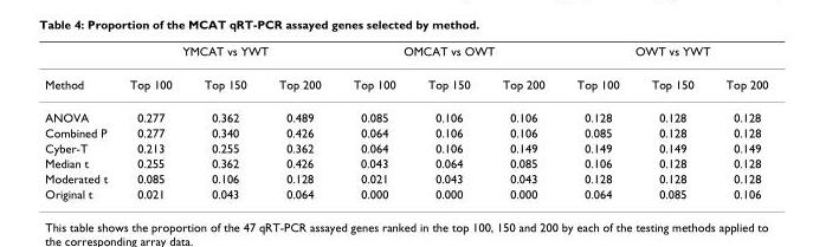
<table><thead><tr><td rowspan="2">Method</td><td colspan="3">YMCAT vs YWT</td><td colspan="3">OMCAT vs OWT</td><td colspan="3">OWT vs YWT</td></tr><tr><td>Top 100</td><td>Top 150</td><td>Top 200</td><td>Top 100</td><td>Top 150</td><td>Top 200</td><td>Top 100</td><td>Top 150</td><td>Top 200</td></tr></thead><tbody><tr><td>ANOVA</td><td>0.277</td><td>0.362</td><td>0.489</td><td>0.085</td><td>0.106</td><td>0.106</td><td>0.128</td><td>0.128</td><td>0.128</td></tr><tr><td>Combined P</td><td>0.277</td><td>0.340</td><td>0.426</td><td>0.064</td><td>0.106</td><td>0.106</td><td>0.085</td><td>0.128</td><td>0.128</td></tr><tr><td>Cyber-T</td><td>0.213</td><td>0.255</td><td>0.362</td><td>0.064</td><td>0.106</td><td>0.149</td><td>0.149</td><td>0.149</td><td>0.149</td></tr><tr><td>Median t</td><td>0.255</td><td>0.362</td><td>0.426</td><td>0.043</td><td>0.064</td><td>0.085</td><td>0.106</td><td>0.128</td><td>0.128</td></tr><tr><td>Moderated t</td><td>0.085</td><td>0.106</td><td>0.128</td><td>0.021</td><td>0.043</td><td>0.043</td><td>0.128</td><td>0.128</td><td>0.128</td></tr><tr><td>Original t</td><td>0.021</td><td>0.043</td><td>0.064</td><td>0.000</td><td>0.000</td><td>0.000</td><td>0.064</td><td>0.085</td><td>0.106</td></tr></tbody></table>